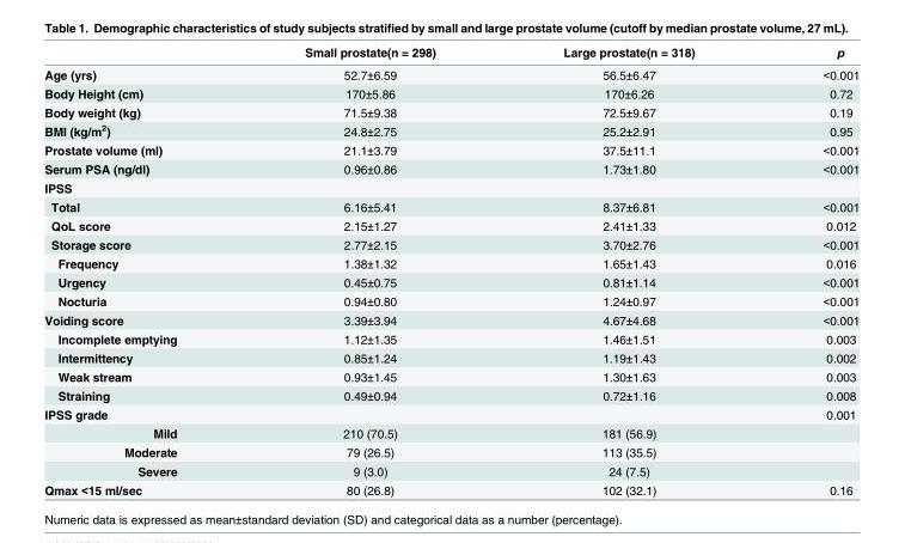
<table><thead><tr><td></td><td>Small prostate(n = 298)</td><td>Large prostate(n = 318)</td><td>p</td></tr></thead><tbody><tr><td>Age (yrs)</td><td>52.7±6.59</td><td>56.5±6.47</td><td>&lt;0.001</td></tr><tr><td>Body Height (cm)</td><td>170±5.86</td><td>170±6.26</td><td>0.72</td></tr><tr><td>Body weight (kg)</td><td>71.5±9.38</td><td>72.5±9.67</td><td>0.19</td></tr><tr><td>BMI (kg/m<sup>2</sup>)</td><td>24.8±2.75</td><td>25.2±2.91</td><td>0.95</td></tr><tr><td>Prostate volume (ml)</td><td>21.1±3.79</td><td>37.5±11.1</td><td>&lt;0.001</td></tr><tr><td>Serum PSA (ng/dl)</td><td>0.96±0.86</td><td>1.73±1.80</td><td>&lt;0.001</td></tr><tr><td colspan="4">IPSS</td></tr><tr><td>Total</td><td>6.16±5.41</td><td>8.37±6.81</td><td>&lt;0.001</td></tr><tr><td>QoL score</td><td>2.15±1.27</td><td>2.41±1.33</td><td>0.012</td></tr><tr><td>Storage score</td><td>2.77±2.15</td><td>3.70±2.76</td><td>&lt;0.001</td></tr><tr><td>Frequency</td><td>1.38±1.32</td><td>1.65±1.43</td><td>0.016</td></tr><tr><td>Urgency</td><td>0.45±0.75</td><td>0.81±1.14</td><td>&lt;0.001</td></tr><tr><td>Nocturia</td><td>0.94±0.80</td><td>1.24±0.97</td><td>&lt;0.001</td></tr><tr><td>Voiding score</td><td>3.39±3.94</td><td>4.67±4.68</td><td>&lt;0.001</td></tr><tr><td>Incomplete emptying</td><td>1.12±1.35</td><td>1.46±1.51</td><td>0.003</td></tr><tr><td>Intermittency</td><td>0.85±1.24</td><td>1.19±1.43</td><td>0.002</td></tr><tr><td>Weak stream</td><td>0.93±1.45</td><td>1.30±1.63</td><td>0.003</td></tr><tr><td>Straining</td><td>0.49±0.94</td><td>0.72±1.16</td><td>0.008</td></tr><tr><td>IPSS grade</td><td></td><td></td><td>0.001</td></tr><tr><td>Mild</td><td>210 (70.5)</td><td>181 (56.9)</td><td></td></tr><tr><td>Moderate</td><td>79 (26.5)</td><td>113 (35.5)</td><td></td></tr><tr><td>Severe</td><td>9 (3.0)</td><td>24 (7.5)</td><td></td></tr><tr><td>Qmax &lt;15 ml/sec</td><td>80 (26.8)</td><td>102 (32.1)</td><td>0.16</td></tr></tbody></table>